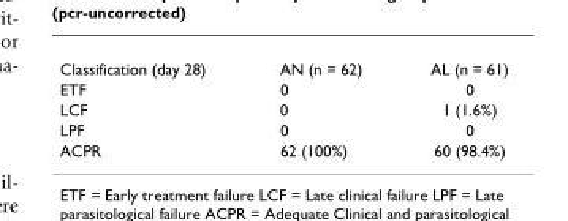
<table><tbody><tr><td>Classification (day 28)</td><td>AN (n = 62)</td><td>AL (n = 61)</td></tr><tr><td>ETF</td><td>0</td><td>0</td></tr><tr><td>LCF</td><td>0</td><td>1 (1.6%)</td></tr><tr><td>LPF</td><td>0</td><td>0</td></tr><tr><td>ACPR</td><td>62 (100%)</td><td>60 (98.4%)</td></tr></tbody></table>